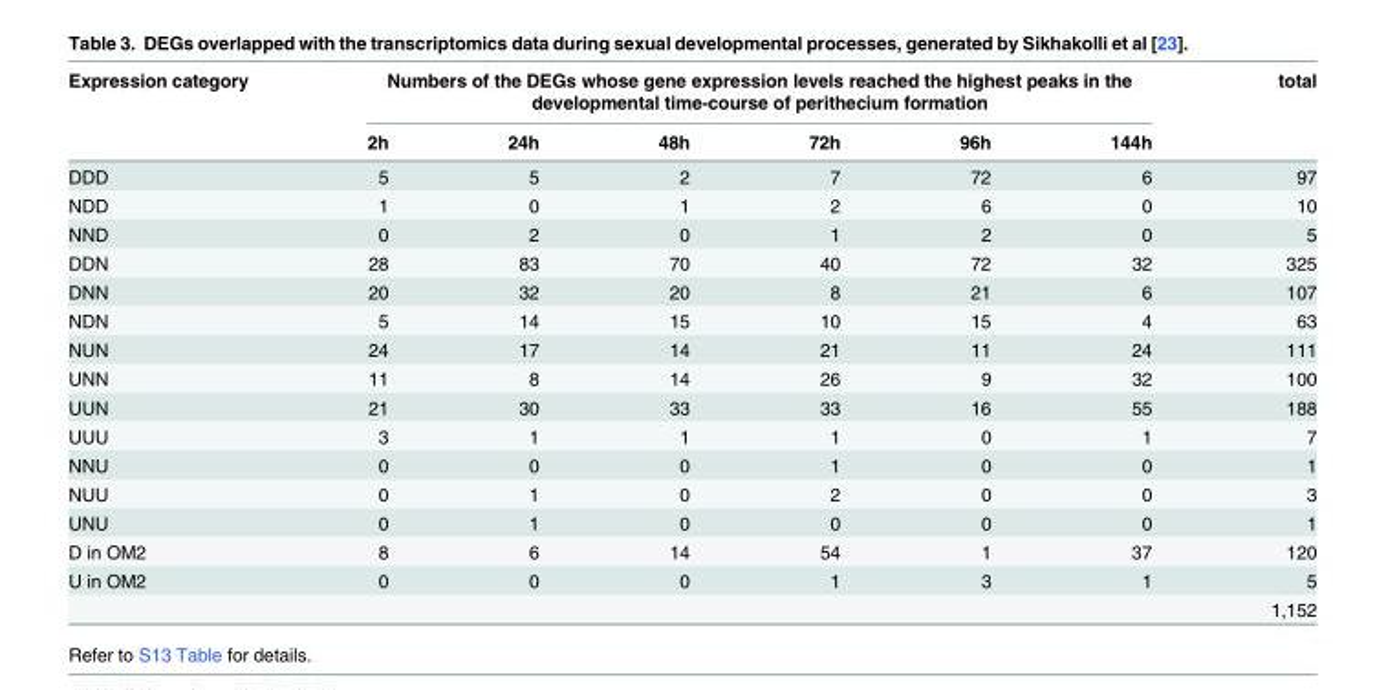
<table><thead><tr><td rowspan="2">Expression category</td><td colspan="6">Numbers of the DEGs whose gene expression levels reached the highest peaks in the developmental time-course of perithecium formation</td><td rowspan="2">total</td></tr><tr><td>2h</td><td>24h</td><td>48h</td><td>72h</td><td>96h</td><td>144h</td></tr></thead><tbody><tr><td>DDD</td><td>5</td><td>5</td><td>2</td><td>7</td><td>72</td><td>6</td><td>97</td></tr><tr><td>NDD</td><td>1</td><td>0</td><td>1</td><td>2</td><td>6</td><td>0</td><td>10</td></tr><tr><td>NND</td><td>0</td><td>2</td><td>0</td><td>1</td><td>2</td><td>0</td><td>5</td></tr><tr><td>DDN</td><td>28</td><td>83</td><td>70</td><td>40</td><td>72</td><td>32</td><td>325</td></tr><tr><td>DNN</td><td>20</td><td>32</td><td>20</td><td>8</td><td>21</td><td>6</td><td>107</td></tr><tr><td>NDN</td><td>5</td><td>14</td><td>15</td><td>10</td><td>15</td><td>4</td><td>63</td></tr><tr><td>NUN</td><td>24</td><td>17</td><td>14</td><td>21</td><td>11</td><td>24</td><td>111</td></tr><tr><td>UNN</td><td>11</td><td>8</td><td>14</td><td>26</td><td>9</td><td>32</td><td>100</td></tr><tr><td>UUN</td><td>21</td><td>30</td><td>33</td><td>33</td><td>16</td><td>55</td><td>188</td></tr><tr><td>UUU</td><td>3</td><td>1</td><td>1</td><td>1</td><td>0</td><td>1</td><td>7</td></tr><tr><td>NNU</td><td>0</td><td>0</td><td>0</td><td>1</td><td>0</td><td>0</td><td>1</td></tr><tr><td>NUU</td><td>0</td><td>1</td><td>0</td><td>2</td><td>0</td><td>0</td><td>3</td></tr><tr><td>UNU</td><td>0</td><td>1</td><td>0</td><td>0</td><td>0</td><td>0</td><td>1</td></tr><tr><td>D in OM2</td><td>8</td><td>6</td><td>14</td><td>54</td><td>1</td><td>37</td><td>120</td></tr><tr><td rowspan="2">U in OM2</td><td>0</td><td>0</td><td>0</td><td>1</td><td>3</td><td>1</td><td>5</td></tr><tr><td></td><td></td><td></td><td></td><td></td><td></td><td>1,152</td></tr></tbody></table>